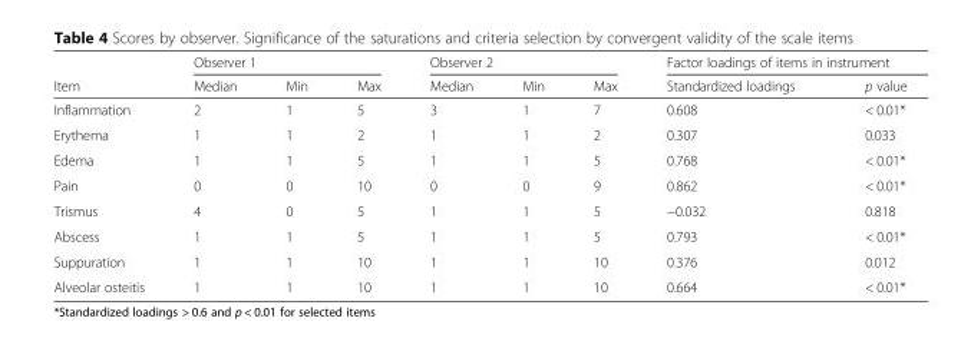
<table><thead><tr><td rowspan="2">Item</td><td colspan="3">Observer 1</td><td colspan="3">Observer 2</td><td colspan="2">Factor loadings of items in instrument</td></tr><tr><td>Median</td><td>Min</td><td>Max</td><td>Median</td><td>Min</td><td>Max</td><td>Standardized loadings</td><td>p value</td></tr></thead><tbody><tr><td>Inflammation</td><td>2</td><td>1</td><td>5</td><td>3</td><td>1</td><td>7</td><td>0.608</td><td>&lt; 0.01*</td></tr><tr><td>Erythema</td><td>1</td><td>1</td><td>2</td><td>1</td><td>1</td><td>2</td><td>0.307</td><td>0.033</td></tr><tr><td>Edema</td><td>1</td><td>1</td><td>5</td><td>1</td><td>1</td><td>5</td><td>0.768</td><td>&lt; 0.01*</td></tr><tr><td>Pain</td><td>0</td><td>0</td><td>10</td><td>0</td><td>0</td><td>9</td><td>0.862</td><td>&lt; 0.01*</td></tr><tr><td>Trismus</td><td>4</td><td>0</td><td>5</td><td>1</td><td>1</td><td>5</td><td>−0.032</td><td>0.818</td></tr><tr><td>Abscess</td><td>1</td><td>1</td><td>5</td><td>1</td><td>1</td><td>5</td><td>0.793</td><td>&lt; 0.01*</td></tr><tr><td>Suppuration</td><td>1</td><td>1</td><td>10</td><td>1</td><td>1</td><td>10</td><td>0.376</td><td>0.012</td></tr><tr><td>Alveolar osteitis</td><td>1</td><td>1</td><td>10</td><td>1</td><td>1</td><td>10</td><td>0.664</td><td>&lt; 0.01*</td></tr></tbody></table>